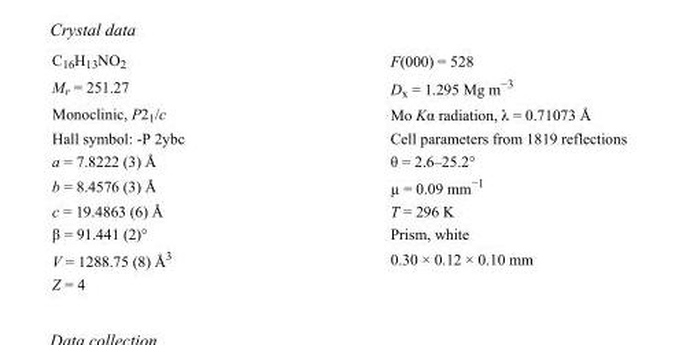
<table><tbody><tr><td>C<sub>16</sub>H<sub>13</sub>NO<sub>2</sub></td><td>F(000) = 528</td></tr><tr><td>M<sub>r</sub> = 251.27</td><td>D<sub>x</sub> = 1.295 Mg m<sup>−3</sup></td></tr><tr><td>Monoclinic, P2<sub>1</sub>/c</td><td>Mo Kα radiation, λ = 0.71073 Å</td></tr><tr><td>Hall symbol: -P 2ybc</td><td>Cell parameters from 1819 reflections</td></tr><tr><td>a = 7.8222 (3) Å</td><td>θ = 2.6–25.2°</td></tr><tr><td>b = 8.4576 (3) Å</td><td>µ = 0.09 mm<sup>−1</sup></td></tr><tr><td>c = 19.4863 (6) Å</td><td>T = 296 K</td></tr><tr><td>β = 91.441 (2)°</td><td>Prism, white</td></tr><tr><td>V = 1288.75 (8) Å<sup>3</sup></td><td>0.30 × 0.12 × 0.10 mm</td></tr><tr><td>Z = 4</td><td></td></tr></tbody></table>